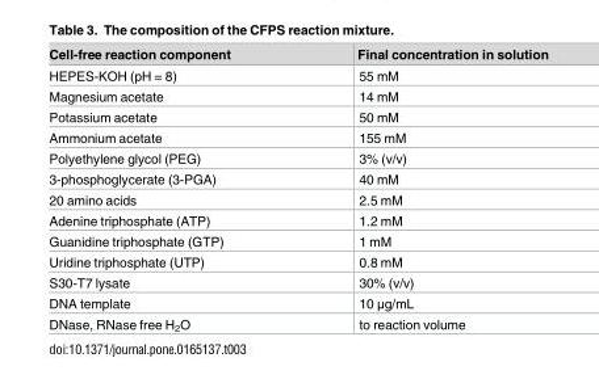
<table><thead><tr><td>Cell-free reaction component</td><td>Final concentration in solution</td></tr></thead><tbody><tr><td>HEPES-KOH (pH = 8)</td><td>55 mM</td></tr><tr><td>Magnesium acetate</td><td>14 mM</td></tr><tr><td>Potassium acetate</td><td>50 mM</td></tr><tr><td>Ammonium acetate</td><td>155 mM</td></tr><tr><td>Polyethylene glycol (PEG)</td><td>3% (v/v)</td></tr><tr><td>3-phosphoglycerate (3-PGA)</td><td>40 mM</td></tr><tr><td>20 amino acids</td><td>2.5 mM</td></tr><tr><td>Adenine triphosphate (ATP)</td><td>1.2 mM</td></tr><tr><td>Guanidine triphosphate (GTP)</td><td>1 mM</td></tr><tr><td>Uridine triphosphate (UTP)</td><td>0.8 mM</td></tr><tr><td>S30-T7 lysate</td><td>30% (v/v)</td></tr><tr><td>DNA template</td><td>10 μg/mL</td></tr><tr><td>DNase, RNase free H<sub>2</sub>O</td><td>to reaction volume</td></tr></tbody></table>